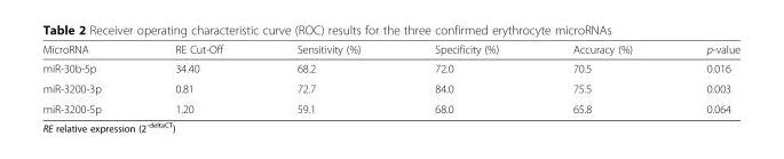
<table><thead><tr><td>MicroRNA</td><td>RE Cut-Off</td><td>Sensitivity (%)</td><td>Specificity (%)</td><td>Accuracy (%)</td><td>p-value</td></tr></thead><tbody><tr><td>miR-30b-5p</td><td>34.40</td><td>68.2</td><td>72.0</td><td>70.5</td><td>0.016</td></tr><tr><td>miR-3200-3p</td><td>0.81</td><td>72.7</td><td>84.0</td><td>75.5</td><td>0.003</td></tr><tr><td>miR-3200-5p</td><td>1.20</td><td>59.1</td><td>68.0</td><td>65.8</td><td>0.064</td></tr></tbody></table>